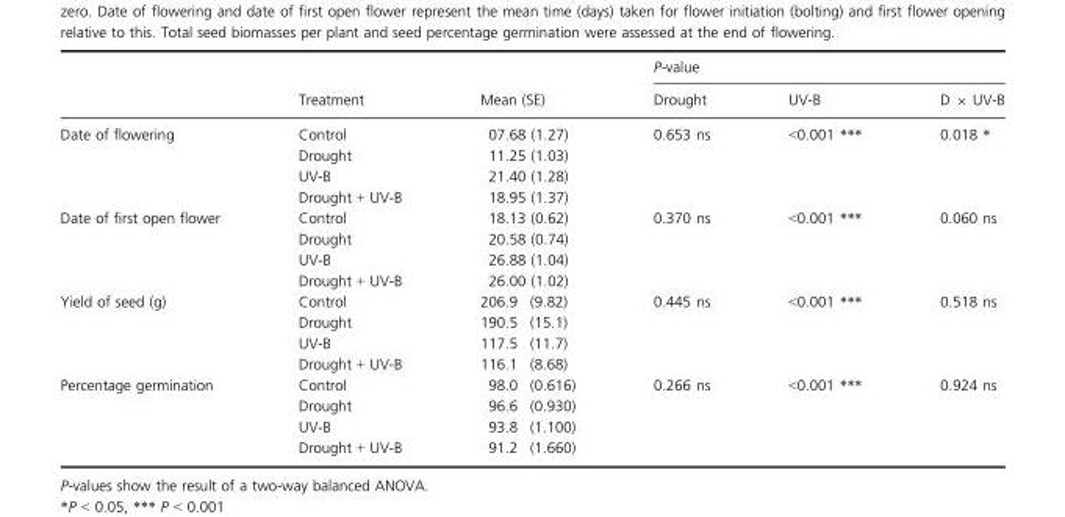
<table><thead><tr><td rowspan="2"></td><td rowspan="2">Treatment</td><td rowspan="2">Mean (SE)</td><td colspan="3">P-value</td></tr><tr><td>Drought</td><td>UV-B</td><td>D × UV-B</td></tr></thead><tbody><tr><td rowspan="4">Date of flowering</td><td>Control</td><td>07.68 (1.27)</td><td>0.653 ns</td><td>&lt;0.001 ***</td><td>0.018 *</td></tr><tr><td>Drought</td><td>11.25 (1.03)</td><td></td><td></td><td></td></tr><tr><td>UV-B</td><td>21.40 (1.28)</td><td></td><td></td><td></td></tr><tr><td>Drought + UV-B</td><td>18.95 (1.37)</td><td></td><td></td><td></td></tr><tr><td rowspan="4">Date of first open flower</td><td>Control</td><td>18.13 (0.62)</td><td>0.370 ns</td><td>&lt;0.001 ***</td><td>0.060 ns</td></tr><tr><td>Drought</td><td>20.58 (0.74)</td><td></td><td></td><td></td></tr><tr><td>UV-B</td><td>26.88 (1.04)</td><td></td><td></td><td></td></tr><tr><td>Drought + UV-B</td><td>26.00 (1.02)</td><td></td><td></td><td></td></tr><tr><td rowspan="4">Yield of seed (g)</td><td>Control</td><td>206.9 (9.82)</td><td>0.445 ns</td><td>&lt;0.001 ***</td><td>0.518 ns</td></tr><tr><td>Drought</td><td>190.5 (15.1)</td><td></td><td></td><td></td></tr><tr><td>UV-B</td><td>117.5 (11.7)</td><td></td><td></td><td></td></tr><tr><td>Drought + UV-B</td><td>116.1 (8.68)</td><td></td><td></td><td></td></tr><tr><td rowspan="4">Percentage germination</td><td>Control</td><td>98.0 (0.616)</td><td>0.266 ns</td><td>&lt;0.001 ***</td><td>0.924 ns</td></tr><tr><td>Drought</td><td>96.6 (0.930)</td><td></td><td></td><td></td></tr><tr><td>UV-B</td><td>93.8 (1.100)</td><td></td><td></td><td></td></tr><tr><td>Drought + UV-B</td><td>91.2 (1.660)</td><td></td><td></td><td></td></tr></tbody></table>